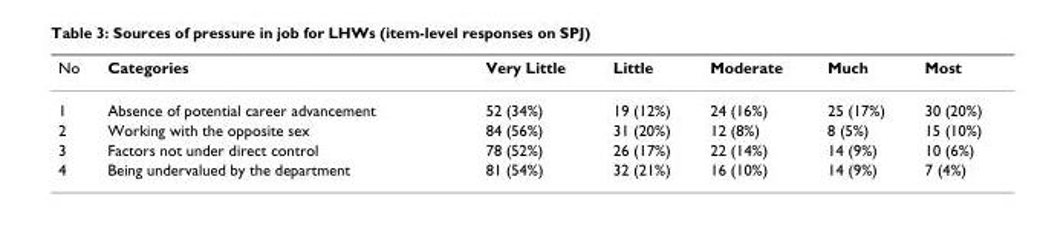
<table><thead><tr><td>No</td><td>Categories</td><td>Very Little</td><td>Little</td><td>Moderate</td><td>Much</td><td>Most</td></tr></thead><tbody><tr><td>1</td><td>Absence of potential career advancement</td><td>52 (34%)</td><td>19 (12%)</td><td>24 (16%)</td><td>25 (17%)</td><td>30 (20%)</td></tr><tr><td>2</td><td>Working with the opposite sex</td><td>84 (56%)</td><td>31 (20%)</td><td>12 (8%)</td><td>8 (5%)</td><td>15 (10%)</td></tr><tr><td>3</td><td>Factors not under direct control</td><td>78 (52%)</td><td>26 (17%)</td><td>22 (14%)</td><td>14 (9%)</td><td>10 (6%)</td></tr><tr><td>4</td><td>Being undervalued by the department</td><td>81 (54%)</td><td>32 (21%)</td><td>16 (10%)</td><td>14 (9%)</td><td>7 (4%)</td></tr></tbody></table>